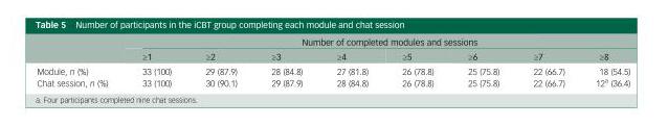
<table><thead><tr><td rowspan="2"></td><td colspan="8">Number of completed modules and sessions</td></tr><tr><td>≥1</td><td>≥2</td><td>≥3</td><td>≥4</td><td>≥5</td><td>≥6</td><td>≥7</td><td>≥8</td></tr></thead><tbody><tr><td>Module, n (%)</td><td>33 (100)</td><td>29 (87.9)</td><td>28 (84.8)</td><td>27 (81.8)</td><td>26 (78.8)</td><td>25 (75.8)</td><td>22 (66.7)</td><td>18 (54.5)</td></tr><tr><td>Chat session, n (%)</td><td>33 (100)</td><td>30 (90.1)</td><td>29 (87.9)</td><td>28 (84.8)</td><td>26 (78.8)</td><td>25 (75.8)</td><td>22 (66.7)</td><td>12<sup>a</sup> (36.4)</td></tr></tbody></table>